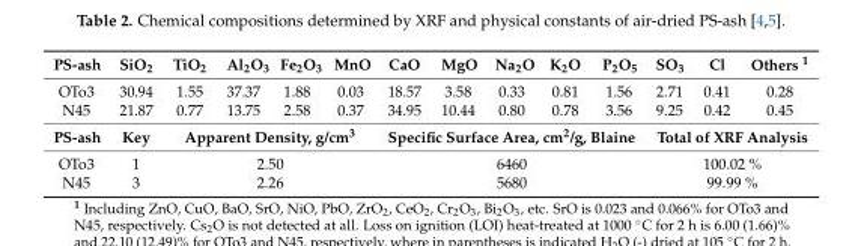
<table><thead><tr><td>PS-ash</td><td>SiO<sub>2</sub></td><td>TiO<sub>2</sub></td><td>Al<sub>2</sub>O<sub>3</sub></td><td>Fe<sub>2</sub>O<sub>3</sub></td><td>MnO</td><td>CaO</td><td>MgO</td><td>Na<sub>2</sub>O</td><td>K<sub>2</sub>O</td><td>P<sub>2</sub>O<sub>5</sub></td><td>SO<sub>3</sub></td><td>Cl</td><td>Others <sup>1</sup></td></tr></thead><tbody><tr><td>OTo3</td><td>30.94</td><td>1.55</td><td>37.37</td><td>1.88</td><td>0.03</td><td>18.57</td><td>3.58</td><td>0.33</td><td>0.81</td><td>1.56</td><td>2.71</td><td>0.41</td><td>0.28</td></tr><tr><td>N45</td><td>21.87</td><td>0.77</td><td>13.75</td><td>2.58</td><td>0.37</td><td>34.95</td><td>10.44</td><td>0.80</td><td>0.78</td><td>3.56</td><td>9.25</td><td>0.42</td><td>0.45</td></tr><tr><td>PS-ash</td><td>Key</td><td colspan="4">Apparent Density, g/cm<sup>3</sup></td><td colspan="5">Specific Surface Area, cm<sup>2</sup>/g, Blaine</td><td colspan="3">Total of XRF Analysis</td></tr><tr><td>OTo3</td><td>1</td><td colspan="4">2.50</td><td colspan="5">6460</td><td colspan="3">100.02 %</td></tr><tr><td>N45</td><td>3</td><td colspan="4">2.26</td><td colspan="5">5680</td><td colspan="3">99.99 %</td></tr></tbody></table>